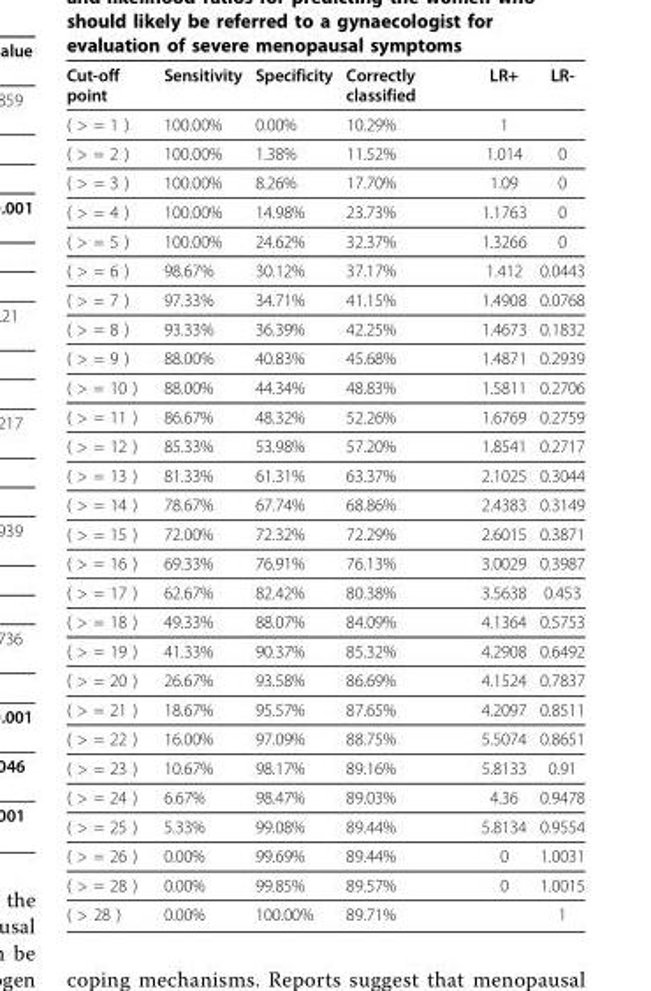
<table><thead><tr><td>Cut-off point</td><td>Sensitivity</td><td>Specificity</td><td>Correctly classified</td><td>LR+</td><td>LR-</td></tr></thead><tbody><tr><td>( &gt; = 1 )</td><td>100.00%</td><td>0.00%</td><td>10.29%</td><td>1</td><td></td></tr><tr><td>( &gt; = 2 )</td><td>100.00%</td><td>1.38%</td><td>11.52%</td><td>1.014</td><td>0</td></tr><tr><td>( &gt; = 3 )</td><td>100.00%</td><td>8.26%</td><td>17.70%</td><td>1.09</td><td>0</td></tr><tr><td>( &gt; = 4 )</td><td>100.00%</td><td>14.98%</td><td>23.73%</td><td>1.1763</td><td>0</td></tr><tr><td>( &gt; = 5 )</td><td>100.00%</td><td>24.62%</td><td>32.37%</td><td>1.3266</td><td>0</td></tr><tr><td>( &gt; = 6 )</td><td>98.67%</td><td>30.12%</td><td>37.17%</td><td>1.412</td><td>0.0443</td></tr><tr><td>( &gt; = 7 )</td><td>97.33%</td><td>34.71%</td><td>41.15%</td><td>1.4908</td><td>0.0768</td></tr><tr><td>( &gt; = 8 )</td><td>93.33%</td><td>36.39%</td><td>42.25%</td><td>1.4673</td><td>0.1832</td></tr><tr><td>( &gt; = 9 )</td><td>88.00%</td><td>40.83%</td><td>45.68%</td><td>1.4871</td><td>0.2939</td></tr><tr><td>( &gt; = 10 )</td><td>88.00%</td><td>44.34%</td><td>48.83%</td><td>1.5811</td><td>0.2706</td></tr><tr><td>( &gt; = 11 )</td><td>86.67%</td><td>48.32%</td><td>52.26%</td><td>1.6769</td><td>0.2759</td></tr><tr><td>( &gt; = 12 )</td><td>85.33%</td><td>53.98%</td><td>57.20%</td><td>1.8541</td><td>0.2717</td></tr><tr><td>( &gt; = 13 )</td><td>81.33%</td><td>61.31%</td><td>63.37%</td><td>2.1025</td><td>0.3044</td></tr><tr><td>( &gt; = 14 )</td><td>78.67%</td><td>67.74%</td><td>68.86%</td><td>2.4383</td><td>0.3149</td></tr><tr><td>( &gt; = 15 )</td><td>72.00%</td><td>72.32%</td><td>72.29%</td><td>2.6015</td><td>0.3871</td></tr><tr><td>( &gt; = 16 )</td><td>69.33%</td><td>76.91%</td><td>76.13%</td><td>3.0029</td><td>0.3987</td></tr><tr><td>( &gt; = 17 )</td><td>62.67%</td><td>82.42%</td><td>80.38%</td><td>3.5638</td><td>0.453</td></tr><tr><td>( &gt; = 18 )</td><td>49.33%</td><td>88.07%</td><td>84.09%</td><td>4.1364</td><td>0.5753</td></tr><tr><td>( &gt; = 19 )</td><td>41.33%</td><td>90.37%</td><td>85.32%</td><td>4.2908</td><td>0.6492</td></tr><tr><td>( &gt; = 20 )</td><td>26.67%</td><td>93.58%</td><td>86.69%</td><td>4.1524</td><td>0.7837</td></tr><tr><td>( &gt; = 21 )</td><td>18.67%</td><td>95.57%</td><td>87.65%</td><td>4.2097</td><td>0.8511</td></tr><tr><td>( &gt; = 22 )</td><td>16.00%</td><td>97.09%</td><td>88.75%</td><td>5.5074</td><td>0.8651</td></tr><tr><td>( &gt; = 23 )</td><td>10.67%</td><td>98.17%</td><td>89.16%</td><td>5.8133</td><td>0.91</td></tr><tr><td>( &gt; = 24 )</td><td>6.67%</td><td>98.47%</td><td>89.03%</td><td>4.36</td><td>0.9478</td></tr><tr><td>( &gt; = 25 )</td><td>5.33%</td><td>99.08%</td><td>89.44%</td><td>5.8134</td><td>0.9554</td></tr><tr><td>( &gt; = 26 )</td><td>0.00%</td><td>99.69%</td><td>89.44%</td><td>0</td><td>1.0031</td></tr><tr><td>( &gt; = 28 )</td><td>0.00%</td><td>99.85%</td><td>89.57%</td><td>0</td><td>1.0015</td></tr><tr><td>( &gt; 28 )</td><td>0.00%</td><td>100.00%</td><td>89.71%</td><td></td><td>1</td></tr></tbody></table>